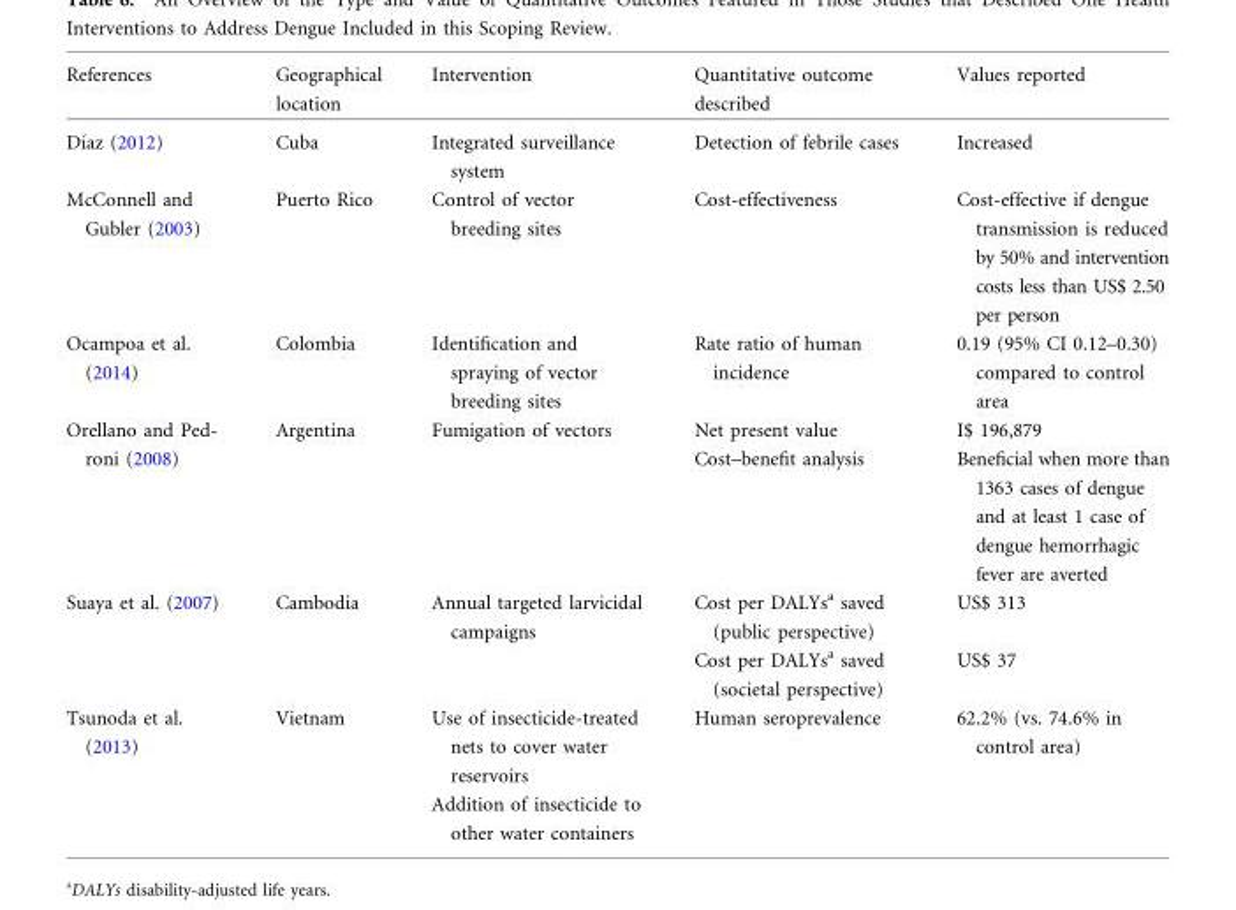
<table><thead><tr><td>References</td><td>Geographical location</td><td>Intervention</td><td>Quantitative outcome described</td><td>Values reported</td></tr></thead><tbody><tr><td>Dı´az (2012)</td><td>Cuba</td><td>Integrated surveillance system</td><td>Detection of febrile cases</td><td>Increased</td></tr><tr><td>McConnell and Gubler (2003)</td><td>Puerto Rico</td><td>Control of vector breeding sites</td><td>Cost-effectiveness</td><td>Cost-effective if dengue transmission is reduced by 50% and intervention costs less than US$ 2.50 per person</td></tr><tr><td>Ocampoa et al. (2014)</td><td>Colombia</td><td>Identification and spraying of vector breeding sites</td><td>Rate ratio of human incidence</td><td>0.19 (95% CI 0.12–0.30) compared to control area</td></tr><tr><td rowspan="2">Orellano and Ped- roni (2008)</td><td rowspan="2">Argentina</td><td rowspan="2">Fumigation of vectors</td><td>Net present value</td><td>I$ 196,879</td></tr><tr><td>Cost–benefit analysis</td><td>Beneficial when more than 1363 cases of dengue and at least 1 case of dengue hemorrhagic fever are averted</td></tr><tr><td rowspan="2">Suaya et al. (2007)</td><td rowspan="2">Cambodia</td><td rowspan="2">Annual targeted larvicidal campaigns</td><td>Cost per DALYs<sup>a</sup> saved (public perspective)</td><td>US$ 313</td></tr><tr><td>Cost per DALYs<sup>a</sup> saved (societal perspective)</td><td>US$ 37</td></tr><tr><td rowspan="2">Tsunoda et al. (2013)</td><td rowspan="2">Vietnam</td><td>Use of insecticide-treated nets to cover water reservoirs</td><td>Human seroprevalence</td><td>62.2% (vs. 74.6% in control area)</td></tr><tr><td>Addition of insecticide to other water containers</td><td></td><td></td></tr></tbody></table>